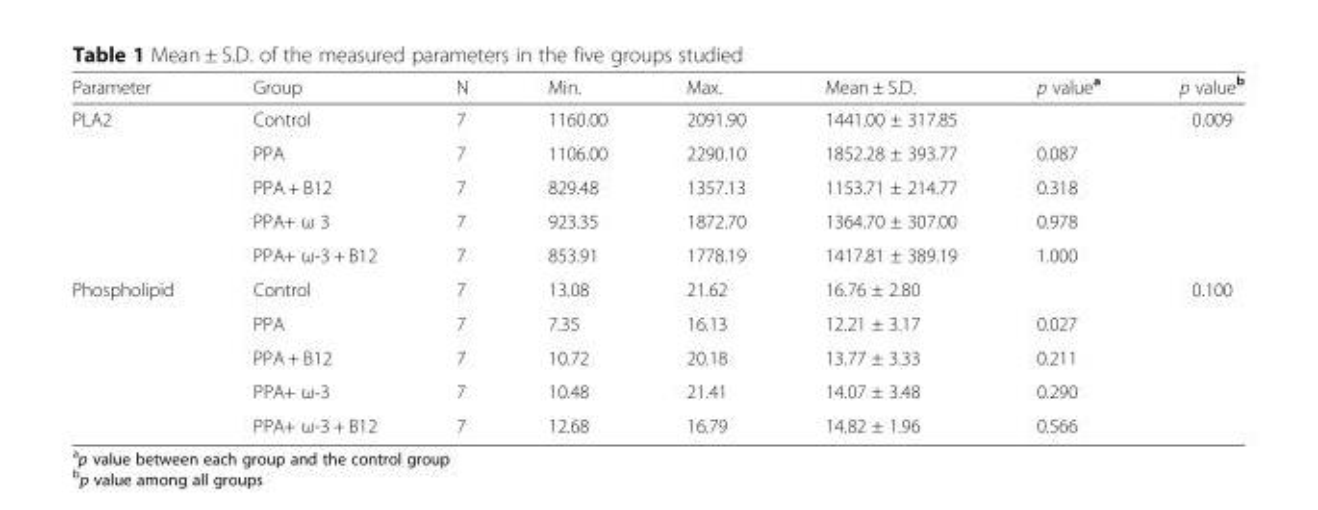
<table><thead><tr><td>Parameter</td><td>Group</td><td>N</td><td>Min.</td><td>Max.</td><td>Mean ± S.D.</td><td>p value<sup>a</sup></td><td>p value<sup>b</sup></td></tr></thead><tbody><tr><td rowspan="5">PLA2</td><td>Control</td><td>7</td><td>1160.00</td><td>2091.90</td><td>1441.00 ± 317.85</td><td></td><td rowspan="5">0.009</td></tr><tr><td>PPA</td><td>7</td><td>1106.00</td><td>2290.10</td><td>1852.28 ± 393.77</td><td>0.087</td></tr><tr><td>PPA + B12</td><td>7</td><td>829.48</td><td>1357.13</td><td>1153.71 ± 214.77</td><td>0.318</td></tr><tr><td>PPA+ ω 3</td><td>7</td><td>923.35</td><td>1872.70</td><td>1364.70 ± 307.00</td><td>0.978</td></tr><tr><td>PPA+ ω-3 + B12</td><td>7</td><td>853.91</td><td>1778.19</td><td>1417.81 ± 389.19</td><td>1.000</td></tr><tr><td rowspan="5">Phospholipid</td><td>Control</td><td>7</td><td>13.08</td><td>21.62</td><td>16.76 ± 2.80</td><td></td><td rowspan="5">0.100</td></tr><tr><td>PPA</td><td>7</td><td>7.35</td><td>16.13</td><td>12.21 ± 3.17</td><td>0.027</td></tr><tr><td>PPA + B12</td><td>7</td><td>10.72</td><td>20.18</td><td>13.77 ± 3.33</td><td>0.211</td></tr><tr><td>PPA+ ω-3</td><td>7</td><td>10.48</td><td>21.41</td><td>14.07 ± 3.48</td><td>0.290</td></tr><tr><td>PPA+ ω-3 + B12</td><td>7</td><td>12.68</td><td>16.79</td><td>14.82 ± 1.96</td><td>0.566</td></tr></tbody></table>